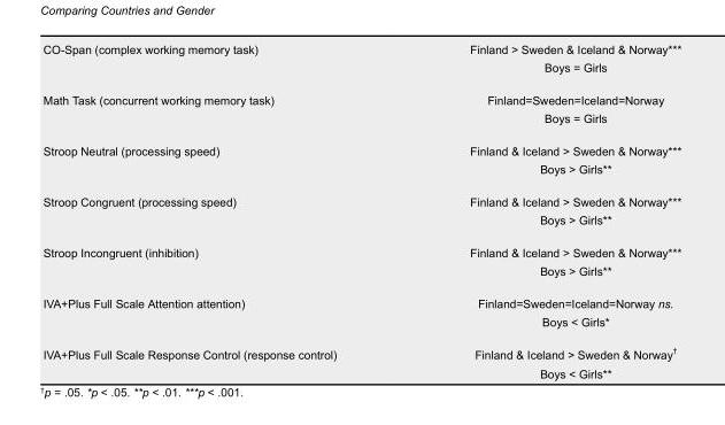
<table><tbody><tr><td rowspan="2">CO-Span (complex working memory task)</td><td>Finland &gt; Sweden &amp; Iceland &amp; Norway***</td></tr><tr><td>Boys = Girls</td></tr><tr><td rowspan="2">Math Task (concurrent working memory task)</td><td>Finland=Sweden=Iceland=Norway</td></tr><tr><td>Boys = Girls</td></tr><tr><td rowspan="2">Stroop Neutral (processing speed)</td><td>Finland &amp; Iceland &gt; Sweden &amp; Norway***</td></tr><tr><td>Boys &gt; Girls**</td></tr><tr><td rowspan="2">Stroop Congruent (processing speed)</td><td>Finland &amp; Iceland &gt; Sweden &amp; Norway***</td></tr><tr><td>Boys &gt; Girls**</td></tr><tr><td rowspan="2">Stroop Incongruent (inhibition)</td><td>Finland &amp; Iceland &gt; Sweden &amp; Norway***</td></tr><tr><td>Boys &gt; Girls**</td></tr><tr><td rowspan="2">IVA+Plus Full Scale Attention attention)</td><td>Finland=Sweden=Iceland=Norway ns.</td></tr><tr><td>Boys &lt; Girls*</td></tr><tr><td rowspan="2">IVA+Plus Full Scale Response Control (response control)</td><td>Finland &amp; Iceland &gt; Sweden &amp; Norway <sup>†</sup></td></tr><tr><td>Boys &lt; Girls**</td></tr></tbody></table>